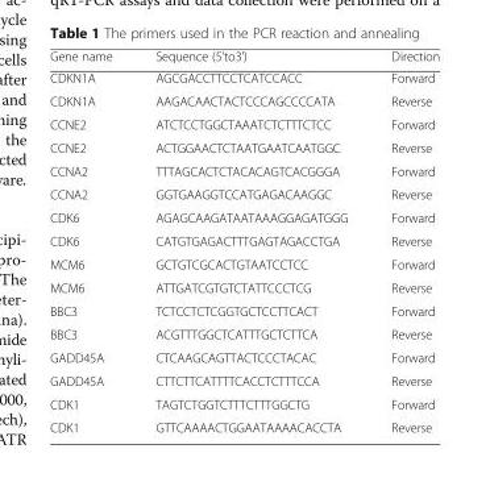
<table><thead><tr><td>Gene name</td><td>Sequence (5’to3’)</td><td>Direction</td></tr></thead><tbody><tr><td>CDKN1A</td><td>AGCGACCTTCCTCATCCACC</td><td>Forward</td></tr><tr><td>CDKN1A</td><td>AAGACAACTACTCCCAGCCCCATA</td><td>Reverse</td></tr><tr><td>CCNE2</td><td>ATCTCCTGGCTAAATCTCTTTCTCC</td><td>Forward</td></tr><tr><td>CCNE2</td><td>ACTGGAACTCTAATGAATCAATGGC</td><td>Reverse</td></tr><tr><td>CCNA2</td><td>TTTAGCACTCTACACAGTCACGGGA</td><td>Forward</td></tr><tr><td>CCNA2</td><td>GGTGAAGGTCCATGAGACAAGGC</td><td>Reverse</td></tr><tr><td>CDK6</td><td>AGAGCAAGATAATAAAGGAGATGGG</td><td>Forward</td></tr><tr><td>CDK6</td><td>CATGTGAGACTTTGAGTAGACCTGA</td><td>Reverse</td></tr><tr><td>MCM6</td><td>GCTGTCGCACTGTAATCCTCC</td><td>Forward</td></tr><tr><td>MCM6</td><td>ATTGATCGTGTCTATTCCCTCG</td><td>Reverse</td></tr><tr><td>BBC3</td><td>TCTCCTCTCGGTGCTCCTTCACT</td><td>Forward</td></tr><tr><td>BBC3</td><td>ACGTTTGGCTCATTTGCTCTTCA</td><td>Reverse</td></tr><tr><td>GADD45A</td><td>CTCAAGCAGTTACTCCCTACAC</td><td>Forward</td></tr><tr><td>GADD45A</td><td>CTTCTTCATTTTCACCTCTTTCCA</td><td>Reverse</td></tr><tr><td>CDK1</td><td>TAGTCTGGTCTTTCTTTGGCTG</td><td>Forward</td></tr><tr><td>CDK1</td><td>GTTCAAAACTGGAATAAAACACCTA</td><td>Reverse</td></tr></tbody></table>